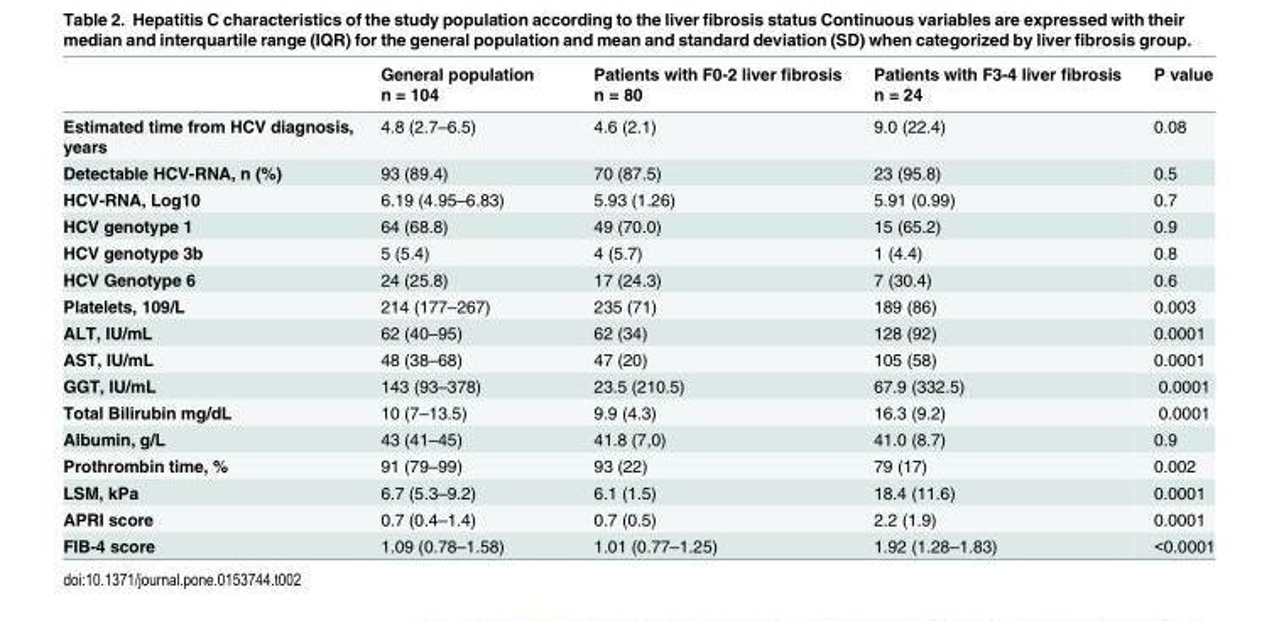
<table><thead><tr><td></td><td>General population n = 104</td><td>Patients with F0-2 liver fibrosis n = 80</td><td>Patients with F3-4 liver fibrosis n = 24</td><td>P value</td></tr></thead><tbody><tr><td>Estimated time from HCV diagnosis, years</td><td>4.8 (2.7–6.5)</td><td>4.6 (2.1)</td><td>9.0 (22.4)</td><td>0.08</td></tr><tr><td>Detectable HCV-RNA, n (%)</td><td>93 (89.4)</td><td>70 (87.5)</td><td>23 (95.8)</td><td>0.5</td></tr><tr><td>HCV-RNA, Log10</td><td>6.19 (4.95–6.83)</td><td>5.93 (1.26)</td><td>5.91 (0.99)</td><td>0.7</td></tr><tr><td>HCV genotype 1</td><td>64 (68.8)</td><td>49 (70.0)</td><td>15 (65.2)</td><td>0.9</td></tr><tr><td>HCV genotype 3b</td><td>5 (5.4)</td><td>4 (5.7)</td><td>1 (4.4)</td><td>0.8</td></tr><tr><td>HCV Genotype 6</td><td>24 (25.8)</td><td>17 (24.3)</td><td>7 (30.4)</td><td>0.6</td></tr><tr><td>Platelets, 109/L</td><td>214 (177–267)</td><td>235 (71)</td><td>189 (86)</td><td>0.003</td></tr><tr><td>ALT, IU/mL</td><td>62 (40–95)</td><td>62 (34)</td><td>128 (92)</td><td>0.0001</td></tr><tr><td>AST, IU/mL</td><td>48 (38–68)</td><td>47 (20)</td><td>105 (58)</td><td>0.0001</td></tr><tr><td>GGT, IU/mL</td><td>143 (93–378)</td><td>23.5 (210.5)</td><td>67.9 (332.5)</td><td>0.0001</td></tr><tr><td>Total Bilirubin mg/dL</td><td>10 (7–13.5)</td><td>9.9 (4.3)</td><td>16.3 (9.2)</td><td>0.0001</td></tr><tr><td>Albumin, g/L</td><td>43 (41–45)</td><td>41.8 (7,0)</td><td>41.0 (8.7)</td><td>0.9</td></tr><tr><td>Prothrombin time, %</td><td>91 (79–99)</td><td>93 (22)</td><td>79 (17)</td><td>0.002</td></tr><tr><td>LSM, kPa</td><td>6.7 (5.3–9.2)</td><td>6.1 (1.5)</td><td>18.4 (11.6)</td><td>0.0001</td></tr><tr><td>APRI score</td><td>0.7 (0.4–1.4)</td><td>0.7 (0.5)</td><td>2.2 (1.9)</td><td>0.0001</td></tr><tr><td>FIB-4 score</td><td>1.09 (0.78–1.58)</td><td>1.01 (0.77–1.25)</td><td>1.92 (1.28–1.83)</td><td>&lt;0.0001</td></tr></tbody></table>